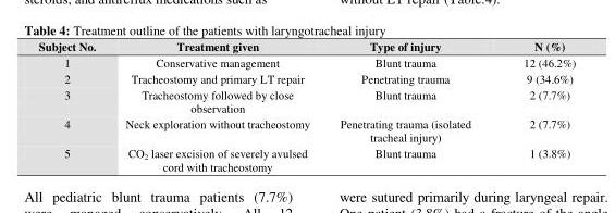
<table><thead><tr><td>Subject No.</td><td>Treatment given</td><td>Type of injury</td><td>N (%)</td></tr></thead><tbody><tr><td>1</td><td>Conservative management</td><td>Blunt trauma</td><td>12 (46.2%)</td></tr><tr><td>2</td><td>Tracheostomy and primary LT repair</td><td>Penetrating trauma</td><td>9 (34.6%)</td></tr><tr><td>3</td><td>Tracheostomy followed by close observation</td><td>Blunt trauma</td><td>2 (7.7%)</td></tr><tr><td>4</td><td>Neck exploration without tracheostomy</td><td>Penetrating trauma (isolated tracheal injury)</td><td>2 (7.7%)</td></tr><tr><td>5</td><td>CO<sub>2</sub> laser excision of severely avulsed cord with tracheostomy</td><td>Blunt trauma</td><td>1 (3.8%)</td></tr></tbody></table>